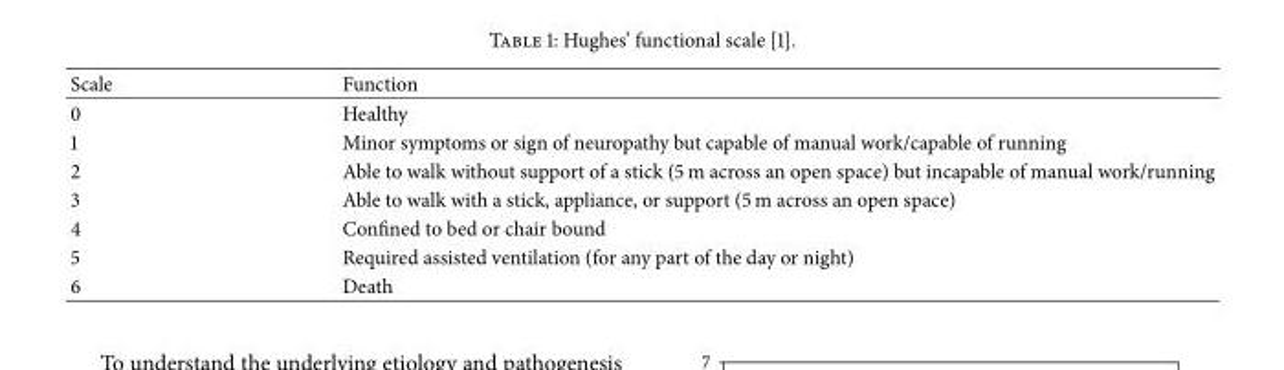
<table><thead><tr><td>Scale</td><td>Function</td></tr></thead><tbody><tr><td>0</td><td>Healthy</td></tr><tr><td>1</td><td>Minor symptoms or sign of neuropathy but capable of manual work/capable of running</td></tr><tr><td>2</td><td>Able to walk without support of a stick (5 m across an open space) but incapable of manual work/running</td></tr><tr><td>3</td><td>Able to walk with a stick, appliance, or support (5 m across an open space)</td></tr><tr><td>4</td><td>Confined to bed or chair bound</td></tr><tr><td>5</td><td>Required assisted ventilation (for any part of the day or night)</td></tr><tr><td>6</td><td>Death</td></tr></tbody></table>